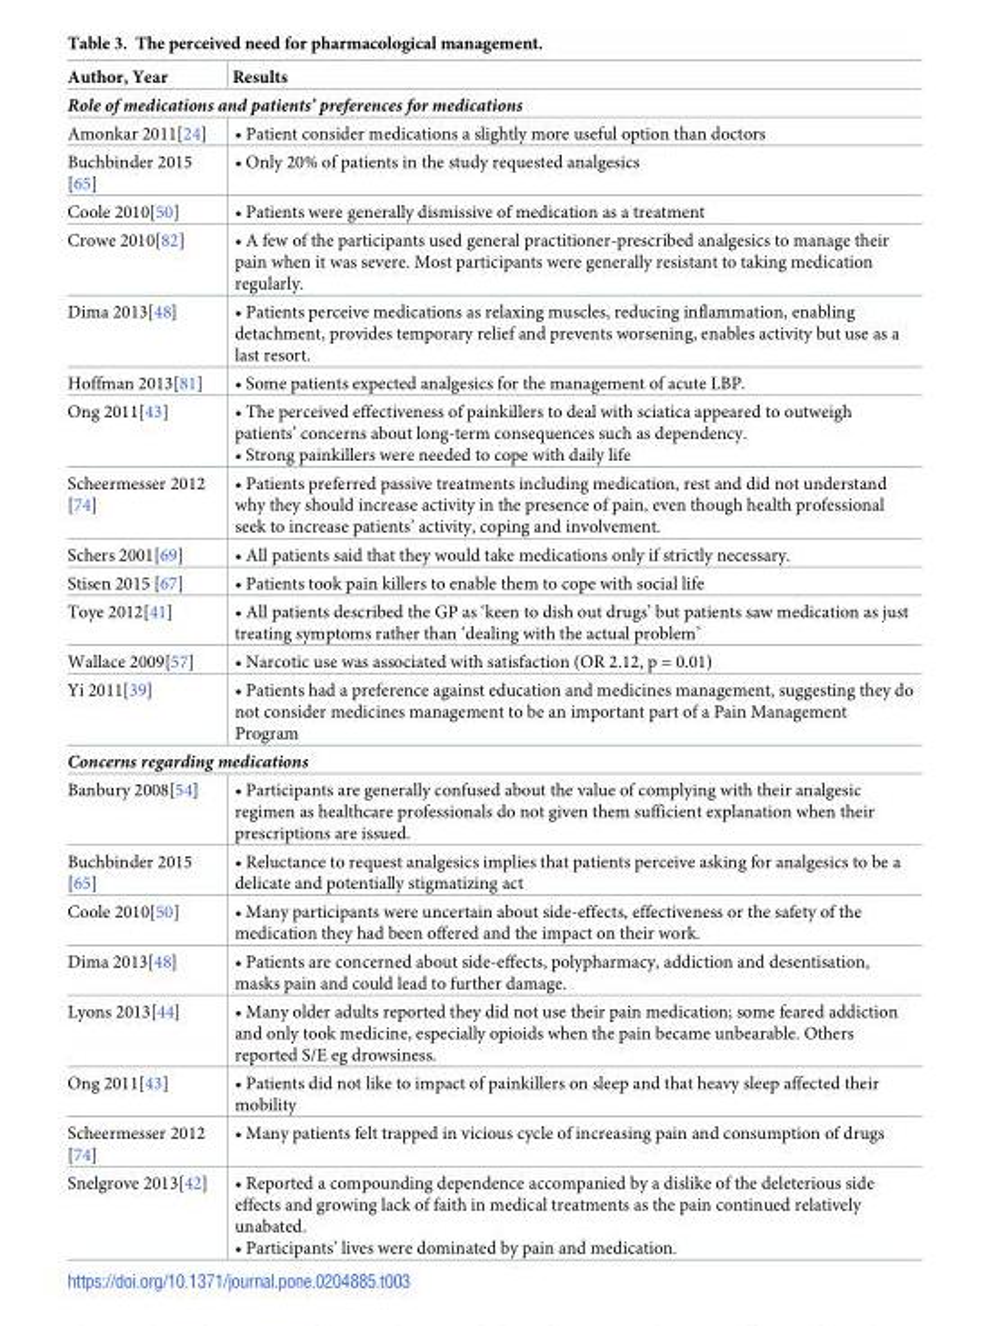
<table><thead><tr><td>Author, Year</td><td>Results</td></tr></thead><tbody><tr><td colspan="2">Role of medications and patients’ preferences for medications</td></tr><tr><td>Amonkar 2011[24]</td><td>• Patient consider medications a slightly more useful option than doctors</td></tr><tr><td>Buchbinder 2015 [65]</td><td>• Only 20% of patients in the study requested analgesics</td></tr><tr><td>Coole 2010[50]</td><td>• Patients were generally dismissive of medication as a treatment</td></tr><tr><td>Crowe 2010[82]</td><td>• A few of the participants used general practitioner-prescribed analgesics to manage their pain when it was severe. Most participants were generally resistant to taking medication regularly.</td></tr><tr><td>Dima 2013[48]</td><td>• Patients perceive medications as relaxing muscles, reducing inflammation, enabling detachment, provides temporary relief and prevents worsening, enables activity but use as a last resort.</td></tr><tr><td>Hoffman 2013[81]</td><td>• Some patients expected analgesics for the management of acute LBP.</td></tr><tr><td>Ong 2011[43]</td><td>• The perceived effectiveness of painkillers to deal with sciatica appeared to outweigh patients’ concerns about long-term consequences such as dependency. • Strong painkillers were needed to cope with daily life</td></tr><tr><td>Scheermesser 2012 [74]</td><td>• Patients preferred passive treatments including medication, rest and did not understand why they should increase activity in the presence of pain, even though health professional seek to increase patients’ activity, coping and involvement.</td></tr><tr><td>Schers 2001[69]</td><td>• All patients said that they would take medications only if strictly necessary.</td></tr><tr><td>Stisen 2015 [67]</td><td>• Patients took pain killers to enable them to cope with social life</td></tr><tr><td>Toye 2012[41]</td><td>• All patients described the GP as ‘keen to dish out drugs’ but patients saw medication as just treating symptoms rather than ‘dealing with the actual problem’</td></tr><tr><td>Wallace 2009[57]</td><td>• Narcotic use was associated with satisfaction (OR 2.12, p = 0.01)</td></tr><tr><td>Yi 2011[39]</td><td>• Patients had a preference against education and medicines management, suggesting they do not consider medicines management to be an important part of a Pain Management Program</td></tr><tr><td colspan="2">Concerns regarding medications</td></tr><tr><td>Banbury 2008[54]</td><td>• Participants are generally confused about the value of complying with their analgesic regimen as healthcare professionals do not given them sufficient explanation when their prescriptions are issued.</td></tr><tr><td>Buchbinder 2015 [65]</td><td>• Reluctance to request analgesics implies that patients perceive asking for analgesics to be a delicate and potentially stigmatizing act</td></tr><tr><td>Coole 2010[50]</td><td>• Many participants were uncertain about side-effects, effectiveness or the safety of the medication they had been offered and the impact on their work.</td></tr><tr><td>Dima 2013[48]</td><td>• Patients are concerned about side-effects, polypharmacy, addiction and desentisation, masks pain and could lead to further damage.</td></tr><tr><td>Lyons 2013[44]</td><td>• Many older adults reported they did not use their pain medication; some feared addiction and only took medicine, especially opioids when the pain became unbearable. Others reported S/E eg drowsiness.</td></tr><tr><td>Ong 2011[43]</td><td>• Patients did not like to impact of painkillers on sleep and that heavy sleep affected their mobility</td></tr><tr><td>Scheermesser 2012 [74]</td><td>• Many patients felt trapped in vicious cycle of increasing pain and consumption of drugs</td></tr><tr><td>Snelgrove 2013[42]</td><td>• Reported a compounding dependence accompanied by a dislike of the deleterious side effects and growing lack of faith in medical treatments as the pain continued relatively unabated. • Participants’ lives were dominated by pain and medication.</td></tr></tbody></table>